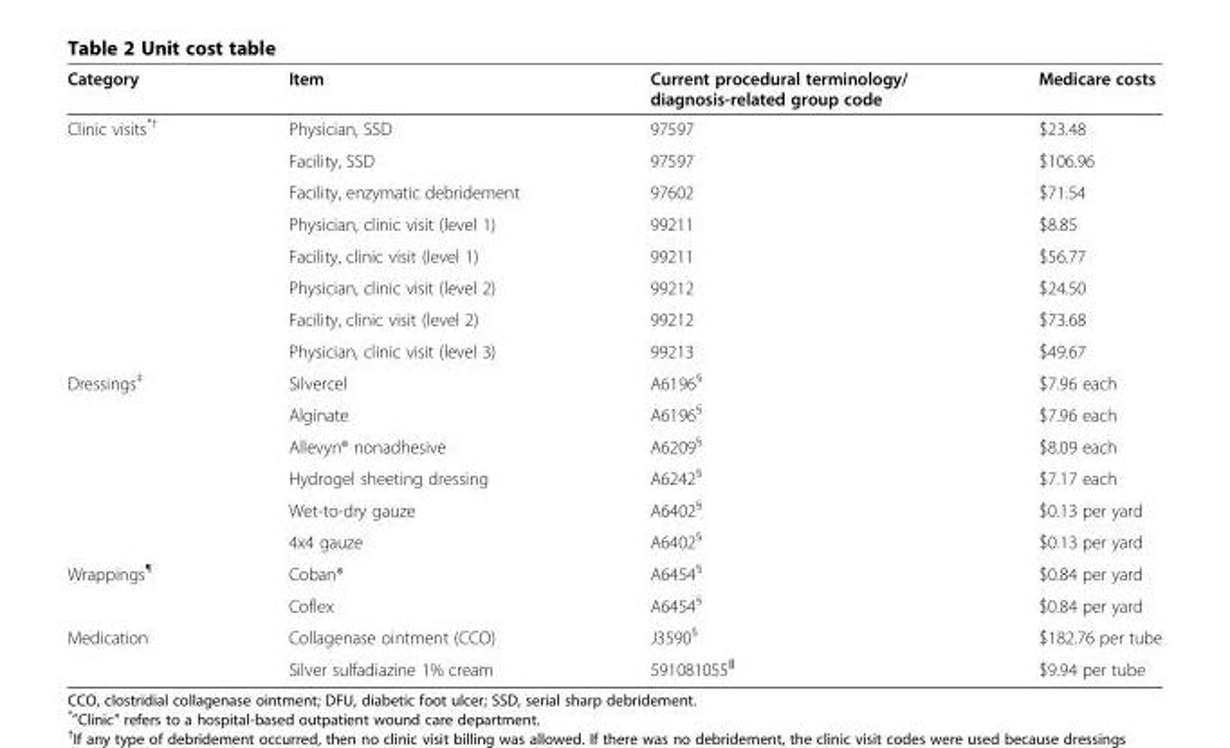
<table><thead><tr><td>Category</td><td>Item</td><td>Current procedural terminology/ diagnosis-related group code</td><td>Medicare costs</td></tr></thead><tbody><tr><td rowspan="8">Clinic visits<sup>*†</sup></td><td>Physician, SSD</td><td>97597</td><td>$23.48</td></tr><tr><td>Facility, SSD</td><td>97597</td><td>$106.96</td></tr><tr><td>Facility, enzymatic debridement</td><td>97602</td><td>$71.54</td></tr><tr><td>Physician, clinic visit (level 1)</td><td>99211</td><td>$8.85</td></tr><tr><td>Facility, clinic visit (level 1)</td><td>99211</td><td>$56.77</td></tr><tr><td>Physician, clinic visit (level 2)</td><td>99212</td><td>$24.50</td></tr><tr><td>Facility, clinic visit (level 2)</td><td>99212</td><td>$73.68</td></tr><tr><td>Physician, clinic visit (level 3)</td><td>99213</td><td>$49.67</td></tr><tr><td rowspan="6">Dressings<sup>‡</sup></td><td>Silvercel</td><td>A6196<sup>§</sup></td><td>$7.96 each</td></tr><tr><td>Alginate</td><td>A6196<sup>§</sup></td><td>$7.96 each</td></tr><tr><td>Allevyn® nonadhesive</td><td>A6209<sup>§</sup></td><td>$8.09 each</td></tr><tr><td>Hydrogel sheeting dressing</td><td>A6242<sup>§</sup></td><td>$7.17 each</td></tr><tr><td>Wet-to-dry gauze</td><td>A6402<sup>§</sup></td><td>$0.13 per yard</td></tr><tr><td>4x4 gauze</td><td>A6402<sup>§</sup></td><td>$0.13 per yard</td></tr><tr><td rowspan="2">Wrappings<sup>¶</sup></td><td>Coban®</td><td>A6454<sup>§</sup></td><td>$0.84 per yard</td></tr><tr><td>Coflex</td><td>A6454<sup>§</sup></td><td>$0.84 per yard</td></tr><tr><td rowspan="2">Medication</td><td>Collagenase ointment (CCO)</td><td>J3590<sup>§</sup></td><td>$182.76 per tube</td></tr><tr><td>Silver sulfadiazine 1% cream</td><td>591081055<sup>‖</sup></td><td>$9.94 per tube</td></tr></tbody></table>